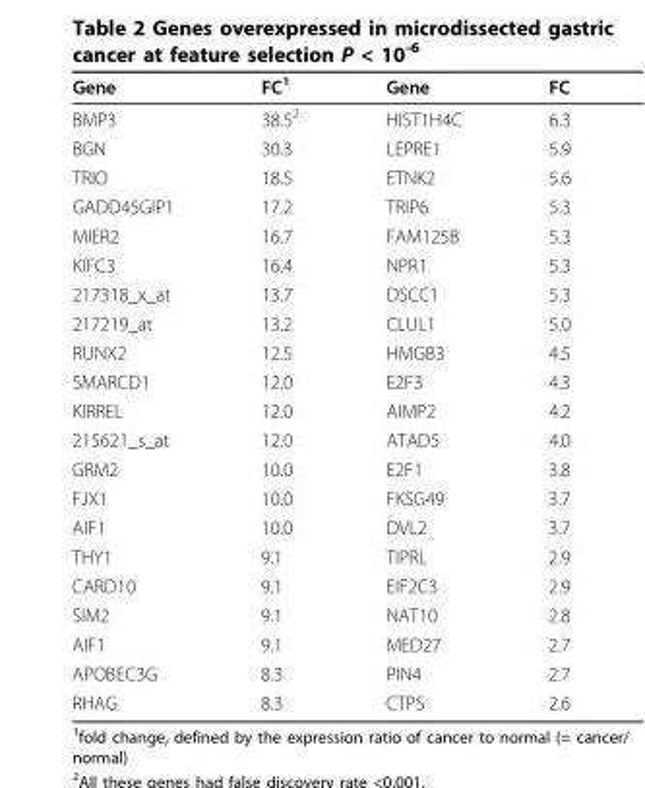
<table><thead><tr><td>Gene</td><td>FC<sup>1</sup></td><td>Gene</td><td>FC</td></tr></thead><tbody><tr><td>BMP3</td><td>38.5<sup>2</sup></td><td>HIST1H4C</td><td>6.3</td></tr><tr><td>BGN</td><td>30.3</td><td>LEPRE1</td><td>5.9</td></tr><tr><td>TRIO</td><td>18.5</td><td>ETNK2</td><td>5.6</td></tr><tr><td>GADD45GIP1</td><td>17.2</td><td>TRIP6</td><td>5.3</td></tr><tr><td>MIER2</td><td>16.7</td><td>FAM125B</td><td>5.3</td></tr><tr><td>KIFC3</td><td>16.4</td><td>NPR1</td><td>5.3</td></tr><tr><td>217318_x_at</td><td>13.7</td><td>DSCC1</td><td>5.3</td></tr><tr><td>217219_at</td><td>13.2</td><td>CLUL1</td><td>5.0</td></tr><tr><td>RUNX2</td><td>12.5</td><td>HMGB3</td><td>4.5</td></tr><tr><td>SMARCD1</td><td>12.0</td><td>E2F3</td><td>4.3</td></tr><tr><td>KIRREL</td><td>12.0</td><td>AIMP2</td><td>4.2</td></tr><tr><td>215621_s_at</td><td>12.0</td><td>ATAD5</td><td>4.0</td></tr><tr><td>GRM2</td><td>10.0</td><td>E2F1</td><td>3.8</td></tr><tr><td>FJX1</td><td>10.0</td><td>FKSG49</td><td>3.7</td></tr><tr><td>AIF1</td><td>10.0</td><td>DVL2</td><td>3.7</td></tr><tr><td>THY1</td><td>9.1</td><td>TIPRL</td><td>2.9</td></tr><tr><td>CARD10</td><td>9.1</td><td>EIF2C3</td><td>2.9</td></tr><tr><td>SIM2</td><td>9.1</td><td>NAT10</td><td>2.8</td></tr><tr><td>AIF1</td><td>9.1</td><td>MED27</td><td>2.7</td></tr><tr><td>APOBEC3G</td><td>8.3</td><td>PIN4</td><td>2.7</td></tr><tr><td>RHAG</td><td>8.3</td><td>CTPS</td><td>2.6</td></tr></tbody></table>